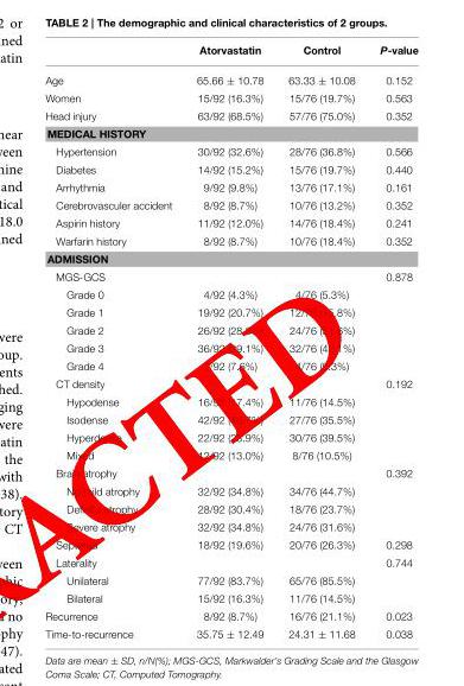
<table><thead><tr><td></td><td>Atorvastatin</td><td>Control</td><td>P-value</td></tr></thead><tbody><tr><td>Age</td><td>65.66 ± 10.78</td><td>63.33 ± 10.08</td><td>0.152</td></tr><tr><td>Women</td><td>15/92 (16.3%)</td><td>15/76 (19.7%)</td><td>0.563</td></tr><tr><td>Head injury</td><td>63/92 (68.5%)</td><td>57/76 (75.0%)</td><td>0.352</td></tr><tr><td colspan="4">MEDICAL HISTORY</td></tr><tr><td>Hypertension</td><td>30/92 (32.6%)</td><td>28/76 (36.8%)</td><td>0.566</td></tr><tr><td>Diabetes</td><td>14/92 (15.2%)</td><td>15/76 (19.7%)</td><td>0.440</td></tr><tr><td>Arrhythmia</td><td>9/92 (9.8%)</td><td>13/76 (17.1%)</td><td>0.161</td></tr><tr><td>Cerebrovasculer accident</td><td>8/92 (8.7%)</td><td>10/76 (13.2%)</td><td>0.352</td></tr><tr><td>Aspirin history</td><td>11/92 (12.0%)</td><td>14/76 (18.4%)</td><td>0.241</td></tr><tr><td>Warfarin history</td><td>8/92 (8.7%)</td><td>10/76 (18.4%)</td><td>0.352</td></tr><tr><td colspan="4">ADMISSION</td></tr><tr><td>MGS-GCS</td><td></td><td></td><td>0.878</td></tr><tr><td>Grade 0</td><td>4/92 (4.3%)</td><td>4/76 (5.3%)</td><td></td></tr><tr><td>Grade 1</td><td>19/92 (20.7%)</td><td>12/76 (15.8%)</td><td></td></tr><tr><td>Grade 2</td><td>26/92 (28.3%)</td><td>24/76 (31.6%)</td><td></td></tr><tr><td>Grade 3</td><td>36/92 (39.1%)</td><td>32/76 (42.1%)</td><td></td></tr><tr><td>Grade 4</td><td>7/92 (7.6%)</td><td>4/76 (5.3%)</td><td></td></tr><tr><td>CT density</td><td></td><td></td><td>0.192</td></tr><tr><td>Hypodense</td><td>16/92 (17.4%)</td><td>11/76 (14.5%)</td><td></td></tr><tr><td>Isodense</td><td>42/92 (45.7%)</td><td>27/76 (35.5%)</td><td></td></tr><tr><td>Hyperdense</td><td>22/92 (23.9%)</td><td>30/76 (39.5%)</td><td></td></tr><tr><td>Mixed</td><td>12/92 (13.0%)</td><td>8/76 (10.5%)</td><td></td></tr><tr><td>Brain atrophy</td><td></td><td></td><td>0.392</td></tr><tr><td>No/mild atrophy</td><td>32/92 (34.8%)</td><td>34/76 (44.7%)</td><td></td></tr><tr><td>Definite atrophy</td><td>28/92 (30.4%)</td><td>18/76 (23.7%)</td><td></td></tr><tr><td>Severe atrophy</td><td>32/92 (34.8%)</td><td>24/76 (31.6%)</td><td></td></tr><tr><td>Septated</td><td>18/92 (19.6%)</td><td>20/76 (26.3%)</td><td>0.298</td></tr><tr><td>Laterality</td><td></td><td></td><td>0.744</td></tr><tr><td>Unilateral</td><td>77/92 (83.7%)</td><td>65/76 (85.5%)</td><td></td></tr><tr><td>Bilateral</td><td>15/92 (16.3%)</td><td>11/76 (14.5%)</td><td></td></tr><tr><td>Recurrence</td><td>8/92 (8.7%)</td><td>16/76 (21.1%)</td><td>0.023</td></tr><tr><td>Time-to-recurrence</td><td>35.75 ± 12.49</td><td>24.31 ± 11.68</td><td>0.038</td></tr></tbody></table>